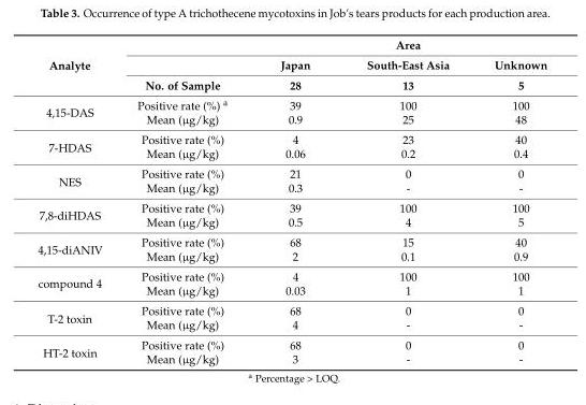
<table><thead><tr><td rowspan="3">Analyte</td><td rowspan="3">No. of Sample</td><td colspan="3">Area</td></tr><tr><td rowspan="2">Japan 28</td><td rowspan="2">South-East Asia 13</td><td rowspan="2">Unknown 5</td></tr><tr></tr></thead><tbody><tr><td rowspan="2">4,15-DAS</td><td>Positive rate (%) <sup>a</sup></td><td>39</td><td>100</td><td>100</td></tr><tr><td>Mean (µg/kg)</td><td>0.9</td><td>25</td><td>48</td></tr><tr><td rowspan="2">7-HDAS</td><td>Positive rate (%)</td><td>4</td><td>23</td><td>40</td></tr><tr><td>Mean (µg/kg)</td><td>0.06</td><td>0.2</td><td>0.4</td></tr><tr><td rowspan="2">NES</td><td>Positive rate (%)</td><td>21</td><td>0</td><td>0</td></tr><tr><td>Mean (µg/kg)</td><td>0.3</td><td>-</td><td>-</td></tr><tr><td rowspan="2">7,8-diHDAS</td><td>Positive rate (%)</td><td>39</td><td>100</td><td>100</td></tr><tr><td>Mean (µg/kg)</td><td>0.5</td><td>4</td><td>5</td></tr><tr><td rowspan="2">4,15-diANIV</td><td>Positive rate (%)</td><td>68</td><td>15</td><td>40</td></tr><tr><td>Mean (µg/kg)</td><td>2</td><td>0.1</td><td>0.9</td></tr><tr><td rowspan="2">compound 4</td><td>Positive rate (%)</td><td>4</td><td>100</td><td>100</td></tr><tr><td>Mean (µg/kg)</td><td>0.03</td><td>1</td><td>1</td></tr><tr><td rowspan="2">T-2 toxin</td><td>Positive rate (%)</td><td>68</td><td>0</td><td>0</td></tr><tr><td>Mean (µg/kg)</td><td>4</td><td>-</td><td>-</td></tr><tr><td rowspan="2">HT-2 toxin</td><td>Positive rate (%)</td><td>68</td><td>0</td><td>0</td></tr><tr><td>Mean (µg/kg)</td><td>3</td><td>-</td><td>-</td></tr></tbody></table>